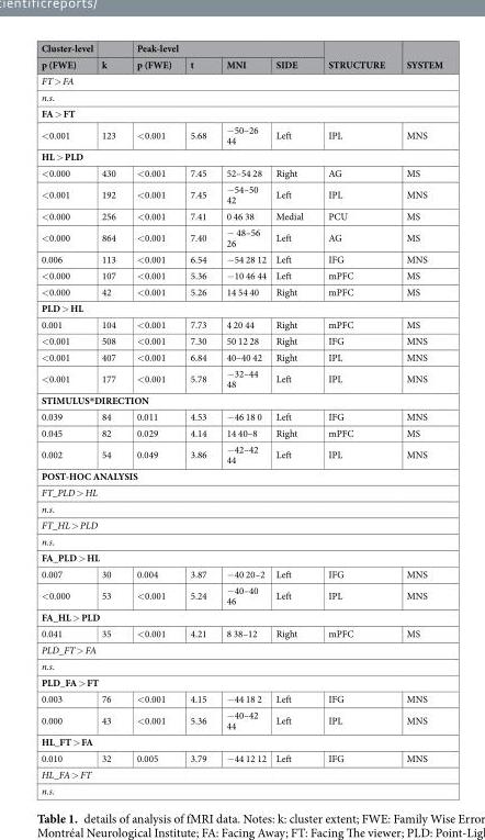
<table><thead><tr><td rowspan="2">Cluster-level p (FWE)</td><td rowspan="2">k</td><td colspan="4">Peak-level</td><td rowspan="2">STRUCTURE</td><td rowspan="2">SYSTEM</td></tr><tr><td>p (FWE)</td><td>t</td><td>MNI</td><td>SIDE</td></tr></thead><tbody><tr><td colspan="8">FT &gt; FA</td></tr><tr><td colspan="8">n.s.</td></tr><tr><td colspan="8">FA &gt; FT</td></tr><tr><td>&lt;0.001</td><td>123</td><td>&lt;0.001</td><td>5.68</td><td>−50–26 44</td><td>Left</td><td>IPL</td><td>MNS</td></tr><tr><td colspan="8">HL &gt; PLD</td></tr><tr><td>&lt;0.000</td><td>430</td><td>&lt;0.001</td><td>7.45</td><td>52–54 28</td><td>Right</td><td>AG</td><td>MS</td></tr><tr><td>&lt;0.001</td><td>192</td><td>&lt;0.001</td><td>7.45</td><td>−54–50 42</td><td>Left</td><td>IPL</td><td>MNS</td></tr><tr><td>&lt;0.000</td><td>256</td><td>&lt;0.001</td><td>7.41</td><td>0 46 38</td><td>Medial</td><td>PCU</td><td>MS</td></tr><tr><td>&lt;0.000</td><td>864</td><td>&lt;0.001</td><td>7.40</td><td>− 48–56 26</td><td>Left</td><td>AG</td><td>MS</td></tr><tr><td>0.006</td><td>113</td><td>&lt;0.001</td><td>6.54</td><td>−54 28 12</td><td>Left</td><td>IFG</td><td>MNS</td></tr><tr><td>&lt;0.000</td><td>107</td><td>&lt;0.001</td><td>5.36</td><td>−10 46 44</td><td>Left</td><td>mPFC</td><td>MS</td></tr><tr><td>&lt;0.000</td><td>42</td><td>&lt;0.001</td><td>5.26</td><td>14 54 40</td><td>Right</td><td>mPFC</td><td>MS</td></tr><tr><td colspan="8">PLD &gt; HL</td></tr><tr><td>0.001</td><td>104</td><td>&lt;0.001</td><td>7.73</td><td>4 20 44</td><td>Right</td><td>mPFC</td><td>MS</td></tr><tr><td>&lt;0.001</td><td>508</td><td>&lt;0.001</td><td>7.30</td><td>50 12 28</td><td>Right</td><td>IFG</td><td>MNS</td></tr><tr><td>&lt;0.001</td><td>407</td><td>&lt;0.001</td><td>6.84</td><td>40–40 42</td><td>Right</td><td>IPL</td><td>MNS</td></tr><tr><td>&lt;0.001</td><td>177</td><td>&lt;0.001</td><td>5.78</td><td>−32–44 48</td><td>Left</td><td>IPL</td><td>MNS</td></tr><tr><td colspan="8">STIMULUS*DIRECTION</td></tr><tr><td>0.039</td><td>84</td><td>0.011</td><td>4.53</td><td>−46 18 0</td><td>Left</td><td>IFG</td><td>MNS</td></tr><tr><td>0.045</td><td>82</td><td>0.029</td><td>4.14</td><td>14 40–8</td><td>Right</td><td>mPFC</td><td>MS</td></tr><tr><td>0.002</td><td>54</td><td>0.049</td><td>3.86</td><td>−42–42 44</td><td>Left</td><td>IPL</td><td>MNS</td></tr><tr><td colspan="8">POST-HOC ANALYSIS</td></tr><tr><td colspan="8">FT_PLD &gt; HL</td></tr><tr><td colspan="8">n.s.</td></tr><tr><td colspan="8">FT_HL &gt; PLD</td></tr><tr><td colspan="8">n.s.</td></tr><tr><td colspan="8">FA_PLD &gt; HL</td></tr><tr><td>0.007</td><td>30</td><td>0.004</td><td>3.87</td><td>−40 20–2</td><td>Left</td><td>IFG</td><td>MNS</td></tr><tr><td>&lt;0.000</td><td>53</td><td>&lt;0.001</td><td>5.24</td><td>−40–40 46</td><td>Left</td><td>IPL</td><td>MNS</td></tr><tr><td colspan="8">FA_HL &gt; PLD</td></tr><tr><td>0.041</td><td>35</td><td>&lt;0.001</td><td>4.21</td><td>8 38–12</td><td>Right</td><td>mPFC</td><td>MS</td></tr><tr><td colspan="8">PLD_FT &gt; FA</td></tr><tr><td colspan="8">n.s.</td></tr><tr><td colspan="8">PLD_FA &gt; FT</td></tr><tr><td>0.003</td><td>76</td><td>&lt;0.001</td><td>4.15</td><td>−44 18 2</td><td>Left</td><td>IFG</td><td>MNS</td></tr><tr><td>0.000</td><td>43</td><td>&lt;0.001</td><td>5.36</td><td>−40–42 44</td><td>Left</td><td>IPL</td><td>MNS</td></tr><tr><td colspan="8">HL_FT &gt; FA</td></tr><tr><td>0.010</td><td>32</td><td>0.005</td><td>3.79</td><td>−44 12 12</td><td>Left</td><td>IFG</td><td>MNS</td></tr><tr><td colspan="8">HL_FA &gt; FT</td></tr><tr><td colspan="8">n.s.</td></tr></tbody></table>